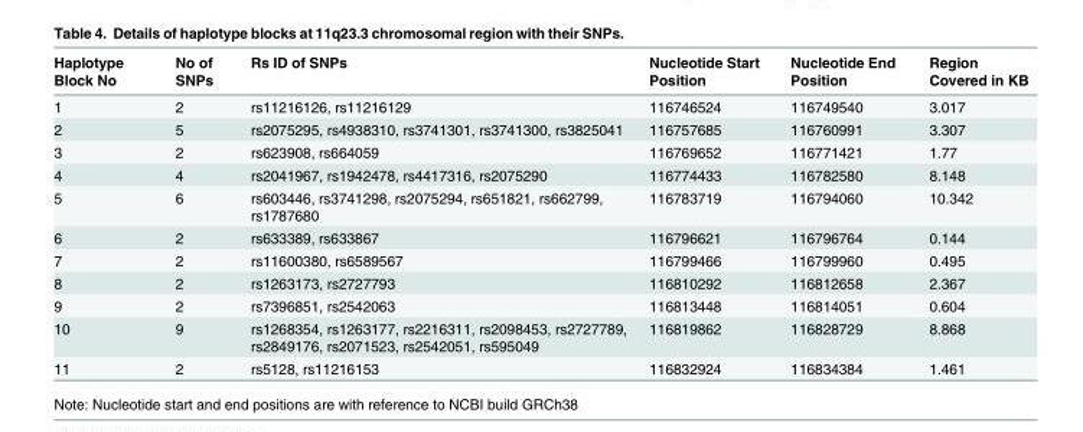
<table><thead><tr><td>Haplotype Block No</td><td>No of SNPs</td><td>Rs ID of SNPs</td><td>Nucleotide Start Position</td><td>Nucleotide End Position</td><td>Region Covered in KB</td></tr></thead><tbody><tr><td>1</td><td>2</td><td>rs11216126, rs11216129</td><td>116746524</td><td>116749540</td><td>3.017</td></tr><tr><td>2</td><td>5</td><td>rs2075295, rs4938310, rs3741301, rs3741300, rs3825041</td><td>116757685</td><td>116760991</td><td>3.307</td></tr><tr><td>3</td><td>2</td><td>rs623908, rs664059</td><td>116769652</td><td>116771421</td><td>1.77</td></tr><tr><td>4</td><td>4</td><td>rs2041967, rs1942478, rs4417316, rs2075290</td><td>116774433</td><td>116782580</td><td>8.148</td></tr><tr><td>5</td><td>6</td><td>rs603446, rs3741298, rs2075294, rs651821, rs662799, rs1787680</td><td>116783719</td><td>116794060</td><td>10.342</td></tr><tr><td>6</td><td>2</td><td>rs633389, rs633867</td><td>116796621</td><td>116796764</td><td>0.144</td></tr><tr><td>7</td><td>2</td><td>rs11600380, rs6589567</td><td>116799466</td><td>116799960</td><td>0.495</td></tr><tr><td>8</td><td>2</td><td>rs1263173, rs2727793</td><td>116810292</td><td>116812658</td><td>2.367</td></tr><tr><td>9</td><td>2</td><td>rs7396851, rs2542063</td><td>116813448</td><td>116814051</td><td>0.604</td></tr><tr><td>10</td><td>9</td><td>rs1268354, rs1263177, rs2216311, rs2098453, rs2727789, rs2849176, rs2071523, rs2542051, rs595049</td><td>116819862</td><td>116828729</td><td>8.868</td></tr><tr><td>11</td><td>2</td><td>rs5128, rs11216153</td><td>116832924</td><td>116834384</td><td>1.461</td></tr></tbody></table>